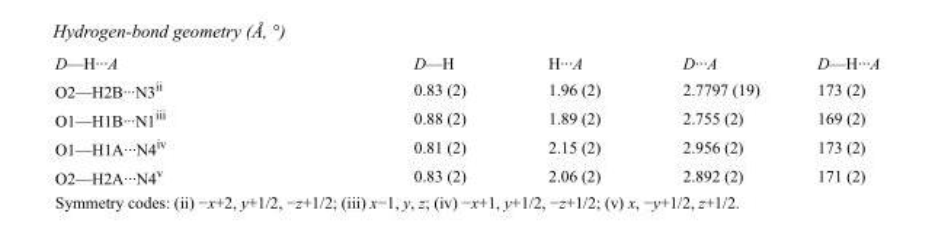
<table><tbody><tr><td>D—H···A</td><td>D—H</td><td>H···A</td><td>D···A</td><td>D—H···A</td></tr><tr><td>O2—H2B···N3<sup>ii</sup></td><td>0.83 (2)</td><td>1.96 (2)</td><td>2.7797 (19)</td><td>173 (2)</td></tr><tr><td>O1—H1B···N1<sup>iii</sup></td><td>0.88 (2)</td><td>1.89 (2)</td><td>2.755 (2)</td><td>169 (2)</td></tr><tr><td>O1—H1A···N4<sup>iv</sup></td><td>0.81 (2)</td><td>2.15 (2)</td><td>2.956 (2)</td><td>173 (2)</td></tr><tr><td>O2—H2A···N4<sup>v</sup></td><td>0.83 (2)</td><td>2.06 (2)</td><td>2.892 (2)</td><td>171 (2)</td></tr></tbody></table>